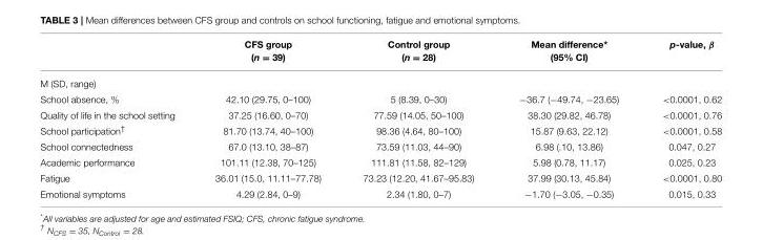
<table><thead><tr><td></td><td>CFS group (n = 39)</td><td>Control group (n = 28)</td><td>Mean difference* (95% CI)</td><td>p-value, β</td></tr></thead><tbody><tr><td colspan="5">M (SD, range)</td></tr><tr><td>School absence, %</td><td>42.10 (29.75, 0–100)</td><td>5 (8.39, 0–30)</td><td>−36.7 (−49.74, −23.65)</td><td>&lt;0.0001, 0.62</td></tr><tr><td>Quality of life in the school setting</td><td>37.25 (16.60, 0–70)</td><td>77.59 (14.05, 50–100)</td><td>38.30 (29.82, 46.78)</td><td>&lt;0.0001, 0.76</td></tr><tr><td>School participation<sup>†</sup></td><td>81.70 (13.74, 40–100)</td><td>98.36 (4.64, 80–100)</td><td>15.87 (9.63, 22.12)</td><td>&lt;0.0001, 0.58</td></tr><tr><td>School connectedness</td><td>67.0 (13.10, 38–87)</td><td>73.59 (11.03, 44–90)</td><td>6.98 (.10, 13.86)</td><td>0.047, 0.27</td></tr><tr><td>Academic performance</td><td>101.11 (12.38, 70–125)</td><td>111.81 (11.58, 82–129)</td><td>5.98 (0.78, 11.17)</td><td>0.025, 0.23</td></tr><tr><td>Fatigue</td><td>36.01 (15.0, 11.11–77.78)</td><td>73.23 (12.20, 41.67–95.83)</td><td>37.99 (30.13, 45.84)</td><td>&lt;0.0001, 0.80</td></tr><tr><td>Emotional symptoms</td><td>4.29 (2.84, 0–9)</td><td>2.34 (1.80, 0–7)</td><td>−1.70 (−3.05, −0.35)</td><td>0.015, 0.33</td></tr></tbody></table>